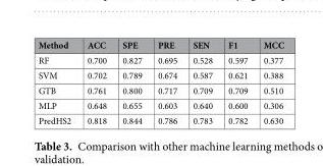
<table><thead><tr><td>Method</td><td>ACC</td><td>SPE</td><td>PRE</td><td>SEN</td><td>F1</td><td>MCC</td></tr></thead><tbody><tr><td>RF</td><td>0.700</td><td>0.827</td><td>0.695</td><td>0.528</td><td>0.597</td><td>0.377</td></tr><tr><td>SVM</td><td>0.702</td><td>0.789</td><td>0.674</td><td>0.587</td><td>0.621</td><td>0.388</td></tr><tr><td>GTB</td><td>0.761</td><td>0.800</td><td>0.717</td><td>0.709</td><td>0.709</td><td>0.510</td></tr><tr><td>MLP</td><td>0.648</td><td>0.655</td><td>0.603</td><td>0.640</td><td>0.600</td><td>0.306</td></tr><tr><td>PredHS2</td><td>0.818</td><td>0.844</td><td>0.786</td><td>0.783</td><td>0.782</td><td>0.630</td></tr></tbody></table>